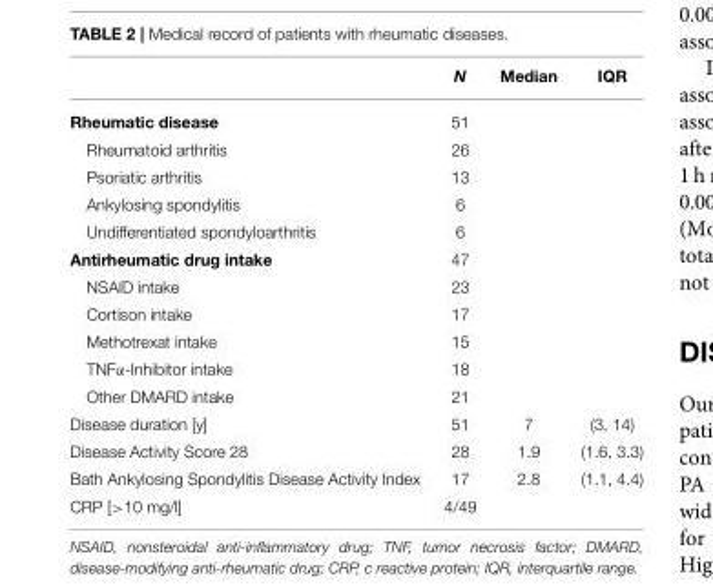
<table><thead><tr><td></td><td>N</td><td>Median</td><td>IQR</td></tr></thead><tbody><tr><td>Rheumatic disease</td><td>51</td><td></td><td></td></tr><tr><td>Rheumatoid arthritis</td><td>26</td><td></td><td></td></tr><tr><td>Psoriatic arthritis</td><td>13</td><td></td><td></td></tr><tr><td>Ankylosing spondylitis</td><td>6</td><td></td><td></td></tr><tr><td>Undifferentiated spondyloarthritis</td><td>6</td><td></td><td></td></tr><tr><td>Antirheumatic drug intake</td><td>47</td><td></td><td></td></tr><tr><td>NSAID intake</td><td>23</td><td></td><td></td></tr><tr><td>Cortison intake</td><td>17</td><td></td><td></td></tr><tr><td>Methotrexat intake</td><td>15</td><td></td><td></td></tr><tr><td>TNFα-Inhibitor intake</td><td>18</td><td></td><td></td></tr><tr><td>Other DMARD intake</td><td>21</td><td></td><td></td></tr><tr><td>Disease duration [y]</td><td>51</td><td>7</td><td>(3, 14)</td></tr><tr><td>Disease Activity Score 28</td><td>28</td><td>1.9</td><td>(1.6, 3.3)</td></tr><tr><td>Bath Ankylosing Spondylitis Disease Activity Index</td><td>17</td><td>2.8</td><td>(1.1, 4.4)</td></tr><tr><td>CRP [&gt;10 mg/l]</td><td>4/49</td><td></td><td></td></tr></tbody></table>